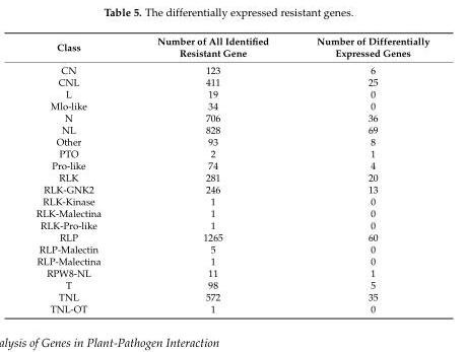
<table><thead><tr><td>Class</td><td>Number of All Identified Resistant Gene</td><td>Number of Differentially Expressed Genes</td></tr></thead><tbody><tr><td>CN</td><td>123</td><td>6</td></tr><tr><td>CNL</td><td>411</td><td>25</td></tr><tr><td>L</td><td>19</td><td>0</td></tr><tr><td>Mlo-like</td><td>34</td><td>0</td></tr><tr><td>N</td><td>706</td><td>36</td></tr><tr><td>NL</td><td>828</td><td>69</td></tr><tr><td>Other</td><td>93</td><td>8</td></tr><tr><td>PTO</td><td>2</td><td>1</td></tr><tr><td>Pro-like</td><td>74</td><td>4</td></tr><tr><td>RLK</td><td>281</td><td>20</td></tr><tr><td>RLK-GNK2</td><td>246</td><td>13</td></tr><tr><td>RLK-Kinase</td><td>1</td><td>0</td></tr><tr><td>RLK-Malectina</td><td>1</td><td>0</td></tr><tr><td>RLK-Pro-like</td><td>1</td><td>0</td></tr><tr><td>RLP</td><td>1265</td><td>60</td></tr><tr><td>RLP-Malectin</td><td>5</td><td>0</td></tr><tr><td>RLP-Malectina</td><td>1</td><td>0</td></tr><tr><td>RPW8-NL</td><td>11</td><td>1</td></tr><tr><td>T</td><td>98</td><td>5</td></tr><tr><td>TNL</td><td>572</td><td>35</td></tr><tr><td>TNL-OT</td><td>1</td><td>0</td></tr></tbody></table>